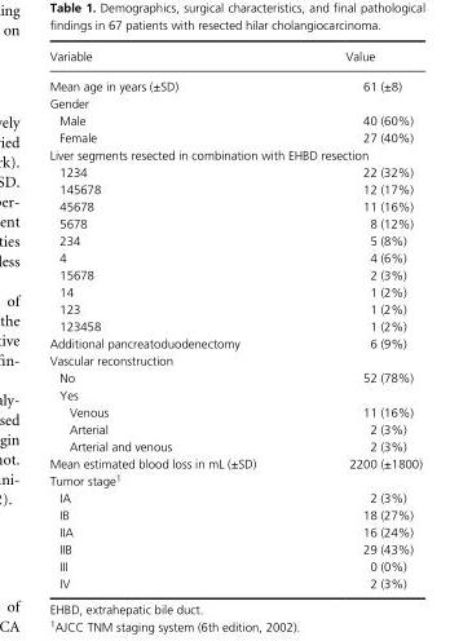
<table><thead><tr><td>Variable</td><td>Value</td></tr></thead><tbody><tr><td>Mean age in years (±SD)</td><td>61 (±8)</td></tr><tr><td colspan="2">Gender</td></tr><tr><td>Male</td><td>40 (60%)</td></tr><tr><td>Female</td><td>27 (40%)</td></tr><tr><td colspan="2">Liver segments resected in combination with EHBD resection</td></tr><tr><td>1234</td><td>22 (32%)</td></tr><tr><td>145678</td><td>12 (17%)</td></tr><tr><td>45678</td><td>11 (16%)</td></tr><tr><td>5678</td><td>8 (12%)</td></tr><tr><td>234</td><td>5 (8%)</td></tr><tr><td>4</td><td>4 (6%)</td></tr><tr><td>15678</td><td>2 (3%)</td></tr><tr><td>14</td><td>1 (2%)</td></tr><tr><td>123</td><td>1 (2%)</td></tr><tr><td>123458</td><td>1 (2%)</td></tr><tr><td>Additional pancreatoduodenectomy</td><td>6 (9%)</td></tr><tr><td colspan="2">Vascular reconstruction</td></tr><tr><td>No</td><td>52 (78%)</td></tr><tr><td colspan="2">Yes</td></tr><tr><td>Venous</td><td>11 (16%)</td></tr><tr><td>Arterial</td><td>2 (3%)</td></tr><tr><td>Arterial and venous</td><td>2 (3%)</td></tr><tr><td>Mean estimated blood loss in mL (±SD)</td><td>2200 (±1800)</td></tr><tr><td colspan="2">Tumor stage1</td></tr><tr><td>IA</td><td>2 (3%)</td></tr><tr><td>IB</td><td>18 (27%)</td></tr><tr><td>IIA</td><td>16 (24%)</td></tr><tr><td>IIB</td><td>29 (43%)</td></tr><tr><td>III</td><td>0 (0%)</td></tr><tr><td>IV</td><td>2 (3%)</td></tr></tbody></table>